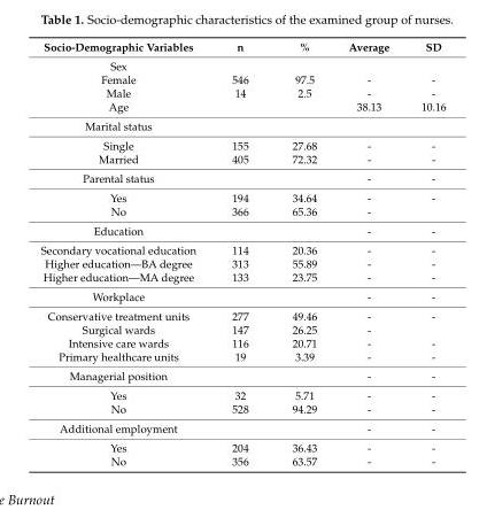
<table><thead><tr><td>Socio-Demographic Variables</td><td>n</td><td>%</td><td>Average</td><td>SD</td></tr></thead><tbody><tr><td colspan="5">Sex</td></tr><tr><td>Female</td><td>546</td><td>97.5</td><td>-</td><td>-</td></tr><tr><td>Male</td><td>14</td><td>2.5</td><td>-</td><td>-</td></tr><tr><td>Age</td><td></td><td></td><td>38.13</td><td>10.16</td></tr><tr><td colspan="5">Marital status</td></tr><tr><td>Single</td><td>155</td><td>27.68</td><td>-</td><td>-</td></tr><tr><td>Married</td><td>405</td><td>72.32</td><td>-</td><td>-</td></tr><tr><td>Parental status</td><td></td><td></td><td>-</td><td>-</td></tr><tr><td>Yes</td><td>194</td><td>34.64</td><td>-</td><td>-</td></tr><tr><td>No</td><td>366</td><td>65.36</td><td>-</td><td></td></tr><tr><td>Education</td><td></td><td></td><td>-</td><td>-</td></tr><tr><td>Secondary vocational education</td><td>114</td><td>20.36</td><td>-</td><td>-</td></tr><tr><td>Higher education—BA degree</td><td>313</td><td>55.89</td><td>-</td><td>-</td></tr><tr><td>Higher education—MA degree</td><td>133</td><td>23.75</td><td>-</td><td>-</td></tr><tr><td>Workplace</td><td></td><td></td><td>-</td><td>-</td></tr><tr><td>Conservative treatment units</td><td>277</td><td>49.46</td><td>-</td><td>-</td></tr><tr><td>Surgical wards</td><td>147</td><td>26.25</td><td>-</td><td></td></tr><tr><td>Intensive care wards</td><td>116</td><td>20.71</td><td>-</td><td>-</td></tr><tr><td>Primary healthcare units</td><td>19</td><td>3.39</td><td>-</td><td>-</td></tr><tr><td>Managerial position</td><td></td><td></td><td>-</td><td>-</td></tr><tr><td>Yes</td><td>32</td><td>5.71</td><td>-</td><td>-</td></tr><tr><td>No</td><td>528</td><td>94.29</td><td>-</td><td>-</td></tr><tr><td>Additional employment</td><td></td><td></td><td>-</td><td>-</td></tr><tr><td>Yes</td><td>204</td><td>36.43</td><td>-</td><td>-</td></tr><tr><td>No</td><td>356</td><td>63.57</td><td>-</td><td>-</td></tr></tbody></table>